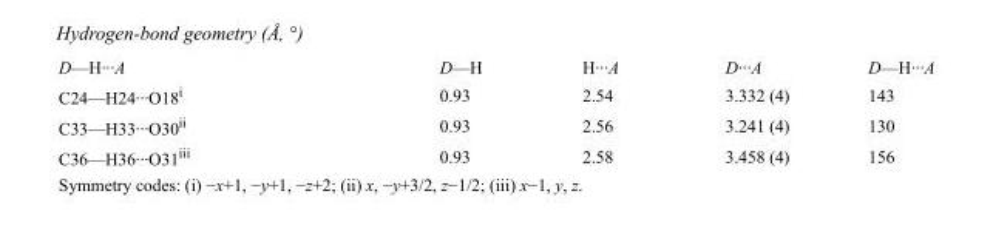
<table><tbody><tr><td>D—H···A</td><td>D—H</td><td>H···A</td><td>D···A</td><td>D—H···A</td></tr><tr><td>C24—H24···O18<sup>i</sup></td><td>0.93</td><td>2.54</td><td>3.332 (4)</td><td>143</td></tr><tr><td>C33—H33···O30<sup>ii</sup></td><td>0.93</td><td>2.56</td><td>3.241 (4)</td><td>130</td></tr><tr><td>C36—H36···O31<sup>iii</sup></td><td>0.93</td><td>2.58</td><td>3.458 (4)</td><td>156</td></tr></tbody></table>